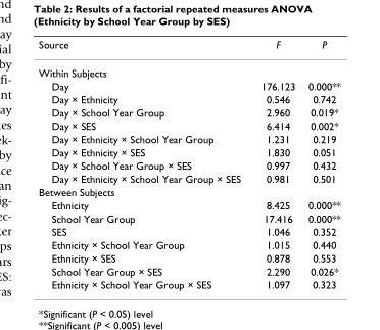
<table><thead><tr><td>Source</td><td>F</td><td>P</td></tr></thead><tbody><tr><td colspan="3">Within Subjects</td></tr><tr><td>Day</td><td>176.123</td><td>0.000**</td></tr><tr><td>Day × Ethnicity</td><td>0.546</td><td>0.742</td></tr><tr><td>Day × School Year Group</td><td>2.960</td><td>0.019*</td></tr><tr><td>Day × SES</td><td>6.414</td><td>0.002*</td></tr><tr><td>Day × Ethnicity × School Year Group</td><td>1.231</td><td>0.219</td></tr><tr><td>Day × Ethnicity × SES</td><td>1.830</td><td>0.051</td></tr><tr><td>Day × School Year Group × SES</td><td>0.997</td><td>0.432</td></tr><tr><td>Day × Ethnicity × School Year Group × SES</td><td>0.981</td><td>0.501</td></tr><tr><td colspan="3">Between Subjects</td></tr><tr><td>Ethnicity</td><td>8.425</td><td>0.000**</td></tr><tr><td>School Year Group</td><td>17.416</td><td>0.000**</td></tr><tr><td>SES</td><td>1.046</td><td>0.352</td></tr><tr><td>Ethnicity × School Year Group</td><td>1.015</td><td>0.440</td></tr><tr><td>Ethnicity × SES</td><td>0.878</td><td>0.553</td></tr><tr><td>School Year Group × SES</td><td>2.290</td><td>0.026*</td></tr><tr><td>Ethnicity × School Year Group × SES</td><td>1.097</td><td>0.323</td></tr></tbody></table>